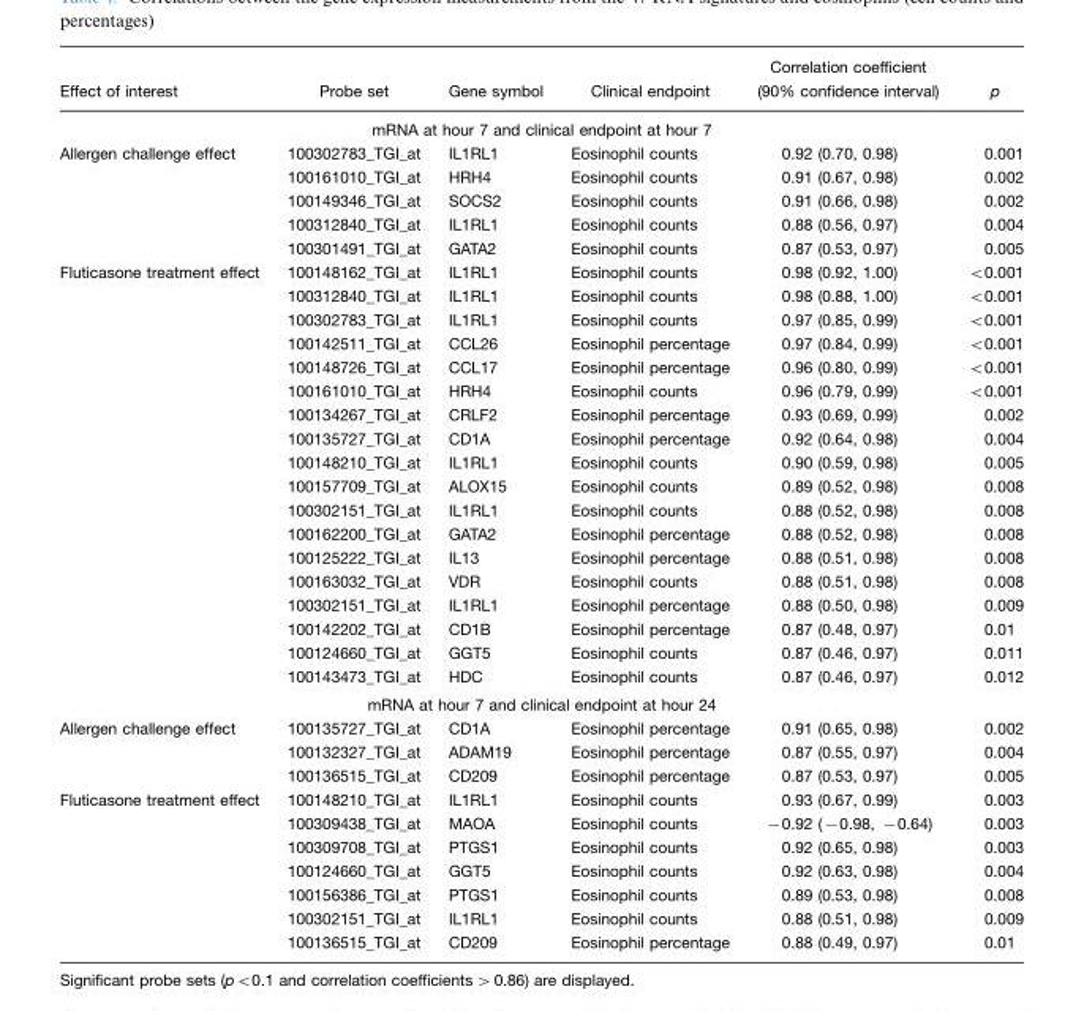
<table><thead><tr><td>Effect of interest</td><td>Probe set</td><td>Gene symbol</td><td>Clinical endpoint</td><td>Correlation coefficient (90% confidence interval)</td><td>p</td></tr></thead><tbody><tr><td colspan="6">mRNA at hour 7 and clinical endpoint at hour 7</td></tr><tr><td rowspan="5">Allergen challenge effect</td><td>100302783_TGI_at</td><td>IL1RL1</td><td>Eosinophil counts</td><td>0.92 (0.70, 0.98)</td><td>0.001</td></tr><tr><td>100161010_TGI_at</td><td>HRH4</td><td>Eosinophil counts</td><td>0.91 (0.67, 0.98)</td><td>0.002</td></tr><tr><td>100149346_TGI_at</td><td>SOCS2</td><td>Eosinophil counts</td><td>0.91 (0.66, 0.98)</td><td>0.002</td></tr><tr><td>100312840_TGI_at</td><td>IL1RL1</td><td>Eosinophil counts</td><td>0.88 (0.56, 0.97)</td><td>0.004</td></tr><tr><td>100301491_TGI_at</td><td>GATA2</td><td>Eosinophil counts</td><td>0.87 (0.53, 0.97)</td><td>0.005</td></tr><tr><td rowspan="18">Fluticasone treatment effect</td><td>100148162_TGI_at</td><td>IL1RL1</td><td>Eosinophil counts</td><td>0.98 (0.92, 1.00)</td><td>&lt;0.001</td></tr><tr><td>100312840_TGI_at</td><td>IL1RL1</td><td>Eosinophil counts</td><td>0.98 (0.88, 1.00)</td><td>&lt;0.001</td></tr><tr><td>100302783_TGI_at</td><td>IL1RL1</td><td>Eosinophil counts</td><td>0.97 (0.85, 0.99)</td><td>&lt;0.001</td></tr><tr><td>100142511_TGI_at</td><td>CCL26</td><td>Eosinophil percentage</td><td>0.97 (0.84, 0.99)</td><td>&lt;0.001</td></tr><tr><td>100148726_TGI_at</td><td>CCL17</td><td>Eosinophil percentage</td><td>0.96 (0.80, 0.99)</td><td>&lt;0.001</td></tr><tr><td>100161010_TGI_at</td><td>HRH4</td><td>Eosinophil counts</td><td>0.96 (0.79, 0.99)</td><td>&lt;0.001</td></tr><tr><td>100134267_TGI_at</td><td>CRLF2</td><td>Eosinophil percentage</td><td>0.93 (0.69, 0.99)</td><td>0.002</td></tr><tr><td>100135727_TGI_at</td><td>CD1A</td><td>Eosinophil percentage</td><td>0.92 (0.64, 0.98)</td><td>0.004</td></tr><tr><td>100148210_TGI_at</td><td>IL1RL1</td><td>Eosinophil counts</td><td>0.90 (0.59, 0.98)</td><td>0.005</td></tr><tr><td>100157709_TGI_at</td><td>ALOX15</td><td>Eosinophil counts</td><td>0.89 (0.52, 0.98)</td><td>0.008</td></tr><tr><td>100302151_TGI_at</td><td>IL1RL1</td><td>Eosinophil counts</td><td>0.88 (0.52, 0.98)</td><td>0.008</td></tr><tr><td>100162200_TGI_at</td><td>GATA2</td><td>Eosinophil percentage</td><td>0.88 (0.52, 0.98)</td><td>0.008</td></tr><tr><td>100125222_TGI_at</td><td>IL13</td><td>Eosinophil percentage</td><td>0.88 (0.51, 0.98)</td><td>0.008</td></tr><tr><td>100163032_TGI_at</td><td>VDR</td><td>Eosinophil counts</td><td>0.88 (0.51, 0.98)</td><td>0.008</td></tr><tr><td>100302151_TGI_at</td><td>IL1RL1</td><td>Eosinophil percentage</td><td>0.88 (0.50, 0.98)</td><td>0.009</td></tr><tr><td>100142202_TGI_at</td><td>CD1B</td><td>Eosinophil percentage</td><td>0.87 (0.48, 0.97)</td><td>0.01</td></tr><tr><td>100124660_TGI_at</td><td>GGT5</td><td>Eosinophil counts</td><td>0.87 (0.46, 0.97)</td><td>0.011</td></tr><tr><td>100143473_TGI_at</td><td>HDC</td><td>Eosinophil counts</td><td>0.87 (0.46, 0.97)</td><td>0.012</td></tr><tr><td colspan="6">mRNA at hour 7 and clinical endpoint at hour 24</td></tr><tr><td rowspan="3">Allergen challenge effect</td><td>100135727_TGI_at</td><td>CD1A</td><td>Eosinophil percentage</td><td>0.91 (0.65, 0.98)</td><td>0.002</td></tr><tr><td>100132327_TGI_at</td><td>ADAM19</td><td>Eosinophil percentage</td><td>0.87 (0.55, 0.97)</td><td>0.004</td></tr><tr><td>100136515_TGI_at</td><td>CD209</td><td>Eosinophil percentage</td><td>0.87 (0.53, 0.97)</td><td>0.005</td></tr><tr><td rowspan="7">Fluticasone treatment effect</td><td>100148210_TGI_at</td><td>IL1RL1</td><td>Eosinophil counts</td><td>0.93 (0.67, 0.99)</td><td>0.003</td></tr><tr><td>100309438_TGI_at</td><td>MAOA</td><td>Eosinophil counts</td><td>−0.92 (−0.98, −0.64)</td><td>0.003</td></tr><tr><td>100309708_TGI_at</td><td>PTGS1</td><td>Eosinophil counts</td><td>0.92 (0.65, 0.98)</td><td>0.003</td></tr><tr><td>100124660_TGI_at</td><td>GGT5</td><td>Eosinophil counts</td><td>0.92 (0.63, 0.98)</td><td>0.004</td></tr><tr><td>100156386_TGI_at</td><td>PTGS1</td><td>Eosinophil counts</td><td>0.89 (0.53, 0.98)</td><td>0.008</td></tr><tr><td>100302151_TGI_at</td><td>IL1RL1</td><td>Eosinophil counts</td><td>0.88 (0.51, 0.98)</td><td>0.009</td></tr><tr><td>100136515_TGI_at</td><td>CD209</td><td>Eosinophil percentage</td><td>0.88 (0.49, 0.97)</td><td>0.01</td></tr></tbody></table>